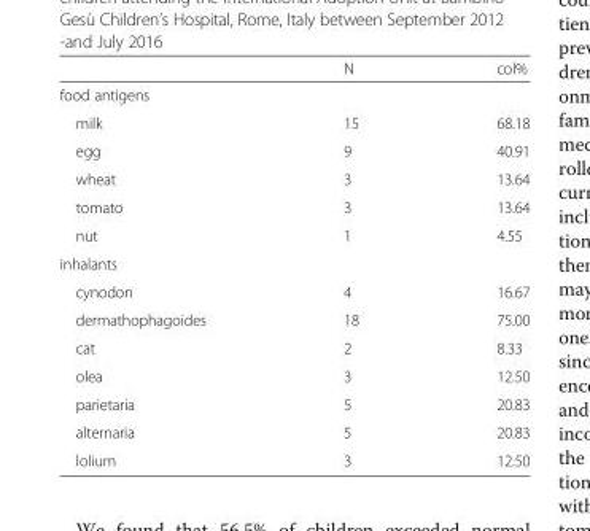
<table><thead><tr><td></td><td>N</td><td>col%</td></tr></thead><tbody><tr><td colspan="3">food antigens</td></tr><tr><td>milk</td><td>15</td><td>68.18</td></tr><tr><td>egg</td><td>9</td><td>40.91</td></tr><tr><td>wheat</td><td>3</td><td>13.64</td></tr><tr><td>tomato</td><td>3</td><td>13.64</td></tr><tr><td>nut</td><td>1</td><td>4.55</td></tr><tr><td colspan="3">inhalants</td></tr><tr><td>cynodon</td><td>4</td><td>16.67</td></tr><tr><td>dermathophagoides</td><td>18</td><td>75.00</td></tr><tr><td>cat</td><td>2</td><td>8.33</td></tr><tr><td>olea</td><td>3</td><td>12.50</td></tr><tr><td>parietaria</td><td>5</td><td>20.83</td></tr><tr><td>alternaria</td><td>5</td><td>20.83</td></tr><tr><td>lolium</td><td>3</td><td>12.50</td></tr></tbody></table>